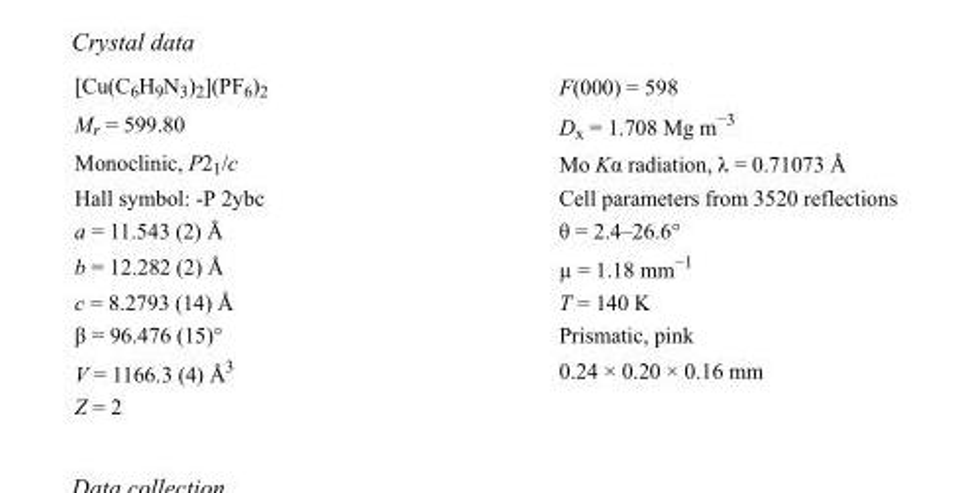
<table><tbody><tr><td>[Cu(C<sub>6</sub>H<sub>9</sub>N<sub>3</sub>)<sub>2</sub>](PF<sub>6</sub>)<sub>2</sub></td><td>F(000) = 598</td></tr><tr><td>M<sub>r</sub> = 599.80</td><td>D<sub>x</sub> = 1.708 Mg m<sup>−3</sup></td></tr><tr><td>Monoclinic, P2<sub>1</sub>/c</td><td>Mo Kα radiation, λ = 0.71073 Å</td></tr><tr><td>Hall symbol: -P 2ybc</td><td>Cell parameters from 3520 reflections</td></tr><tr><td>a = 11.543 (2) Å</td><td>θ = 2.4–26.6°</td></tr><tr><td>b = 12.282 (2) Å</td><td>µ = 1.18 mm<sup>−1</sup></td></tr><tr><td>c = 8.2793 (14) Å</td><td>T = 140 K</td></tr><tr><td>β = 96.476 (15)°</td><td>Prismatic, pink</td></tr><tr><td>V = 1166.3 (4) Å<sup>3</sup></td><td>0.24 × 0.20 × 0.16 mm</td></tr><tr><td>Z = 2</td><td></td></tr></tbody></table>